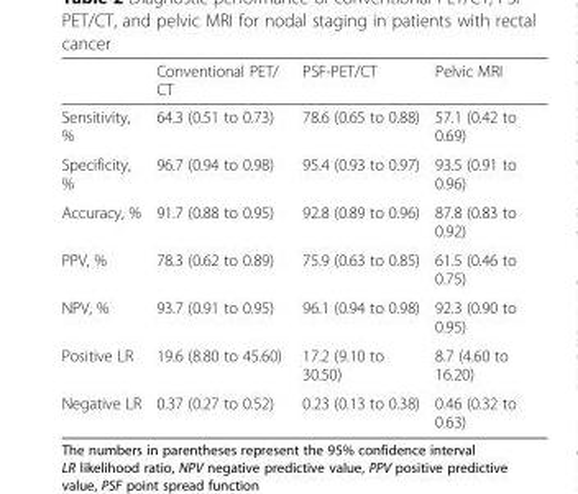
<table><thead><tr><td></td><td>Conventional PET/ CT</td><td>PSF-PET/CT</td><td>Pelvic MRI</td></tr></thead><tbody><tr><td>Sensitivity, %</td><td>64.3 (0.51 to 0.73)</td><td>78.6 (0.65 to 0.88)</td><td>57.1 (0.42 to 0.69)</td></tr><tr><td>Specificity, %</td><td>96.7 (0.94 to 0.98)</td><td>95.4 (0.93 to 0.97)</td><td>93.5 (0.91 to 0.96)</td></tr><tr><td>Accuracy, %</td><td>91.7 (0.88 to 0.95)</td><td>92.8 (0.89 to 0.96)</td><td>87.8 (0.83 to 0.92)</td></tr><tr><td>PPV, %</td><td>78.3 (0.62 to 0.89)</td><td>75.9 (0.63 to 0.85)</td><td>61.5 (0.46 to 0.75)</td></tr><tr><td>NPV, %</td><td>93.7 (0.91 to 0.95)</td><td>96.1 (0.94 to 0.98)</td><td>92.3 (0.90 to 0.95)</td></tr><tr><td>Positive LR</td><td>19.6 (8.80 to 45.60)</td><td>17.2 (9.10 to 30.50)</td><td>8.7 (4.60 to 16.20)</td></tr><tr><td>Negative LR</td><td>0.37 (0.27 to 0.52)</td><td>0.23 (0.13 to 0.38)</td><td>0.46 (0.32 to 0.63)</td></tr></tbody></table>